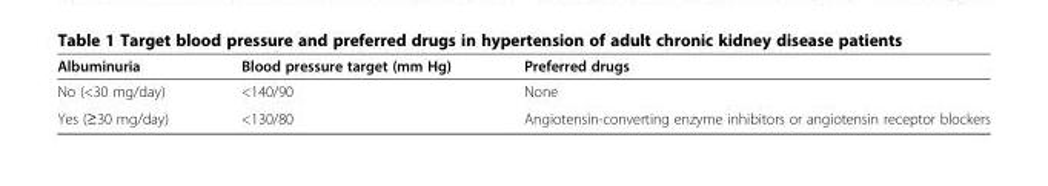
<table><thead><tr><td>Albuminuria</td><td>Blood pressure target (mm Hg)</td><td>Preferred drugs</td></tr></thead><tbody><tr><td>No (&lt;30 mg/day)</td><td>&lt;140/90</td><td>None</td></tr><tr><td>Yes (≥30 mg/day)</td><td>&lt;130/80</td><td>Angiotensin-converting enzyme inhibitors or angiotensin receptor blockers</td></tr></tbody></table>